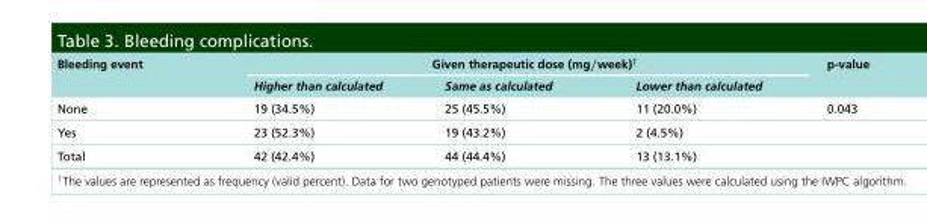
<table><thead><tr><td rowspan="2">Bleeding event</td><td colspan="3">Given therapeutic dose (mg/week)<sup>†</sup></td><td rowspan="2">p-value</td></tr><tr><td>Higher than calculated</td><td>Same as calculated</td><td>Lower than calculated</td></tr></thead><tbody><tr><td>None</td><td>19 (34.5%)</td><td>25 (45.5%)</td><td>11 (20.0%)</td><td>0.043</td></tr><tr><td>Yes</td><td>23 (52.3%)</td><td>19 (43.2%)</td><td>2 (4.5%)</td><td></td></tr><tr><td>Total</td><td>42 (42.4%)</td><td>44 (44.4%)</td><td>13 (13.1%)</td><td></td></tr></tbody></table>